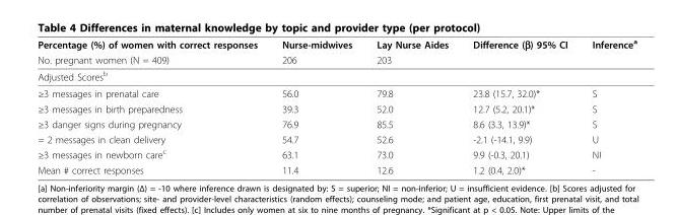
<table><thead><tr><td rowspan="2">Percentage (%) of women with correct responses No. pregnant women (N = 409)</td><td rowspan="2">Nurse-midwives 206</td><td rowspan="2">Lay Nurse Aides 203</td><td rowspan="2">Difference (β) 95% CI</td><td rowspan="2">Inferencea</td></tr><tr></tr></thead><tbody><tr><td colspan="5">Adjusted Scoresb</td></tr><tr><td>≥3 messages in prenatal care</td><td>56.0</td><td>79.8</td><td>23.8 (15.7, 32.0)*</td><td>S</td></tr><tr><td>≥3 messages in birth preparedness</td><td>39.3</td><td>52.0</td><td>12.7 (5.2, 20.1)*</td><td>S</td></tr><tr><td>≥3 danger signs during pregnancy</td><td>76.9</td><td>85.5</td><td>8.6 (3.3, 13.9)*</td><td>S</td></tr><tr><td>= 2 messages in clean delivery</td><td>54.7</td><td>52.6</td><td>-2.1 (-14.1, 9.9)</td><td>U</td></tr><tr><td>≥3 messages in newborn care<sup>c</sup></td><td>63.1</td><td>73.0</td><td>9.9 (-0.3, 20.1)</td><td>NI</td></tr><tr><td>Mean # correct responses</td><td>11.4</td><td>12.6</td><td>1.2 (0.4, 2.0)*</td><td>-</td></tr></tbody></table>